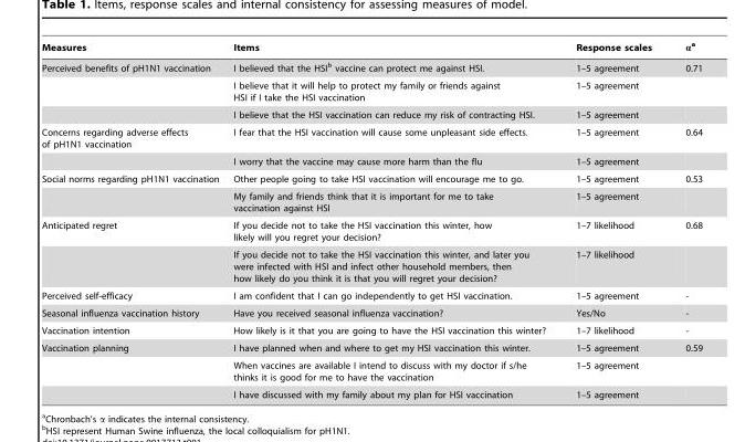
<table><thead><tr><td>Measures</td><td>Items</td><td>Response scales</td><td>α<sup>a</sup></td></tr></thead><tbody><tr><td rowspan="3">Perceived benefits of pH1N1 vaccination</td><td>I believed that the HSI<sup>b</sup> vaccine can protect me against HSI.</td><td>1–5 agreement</td><td>0.71</td></tr><tr><td>I believe that it will help to protect my family or friends against HSI if I take the HSI vaccination</td><td>1–5 agreement</td><td></td></tr><tr><td>I believe that the HSI vaccination can reduce my risk of contracting HSI.</td><td>1–5 agreement</td><td></td></tr><tr><td rowspan="2">Concerns regarding adverse effects of pH1N1 vaccination</td><td>I fear that the HSI vaccination will cause some unpleasant side effects.</td><td>1–5 agreement</td><td>0.64</td></tr><tr><td>I worry that the vaccine may cause more harm than the flu</td><td>1–5 agreement</td><td></td></tr><tr><td rowspan="2">Social norms regarding pH1N1 vaccination</td><td>Other people going to take HSI vaccination will encourage me to go.</td><td>1–5 agreement</td><td>0.53</td></tr><tr><td>My family and friends think that it is important for me to take vaccination against HSI</td><td>1–5 agreement</td><td></td></tr><tr><td rowspan="2">Anticipated regret</td><td>If you decide not to take the HSI vaccination this winter, how likely will you regret your decision?</td><td>1–7 likelihood</td><td>0.68</td></tr><tr><td>If you decide not to take the HSI vaccination this winter, and later you were infected with HSI and infect other household members, then how likely do you think it is that you will regret your decision?</td><td>1–7 likelihood</td><td></td></tr><tr><td>Perceived self-efficacy</td><td>I am confident that I can go independently to get HSI vaccination.</td><td>1–5 agreement</td><td>-</td></tr><tr><td>Seasonal influenza vaccination history</td><td>Have you received seasonal influenza vaccination?</td><td>Yes/No</td><td>-</td></tr><tr><td>Vaccination intention</td><td>How likely is it that you are going to have the HSI vaccination this winter?</td><td>1–7 likelihood</td><td>-</td></tr><tr><td rowspan="3">Vaccination planning</td><td>I have planned when and where to get my HSI vaccination this winter.</td><td>1–5 agreement</td><td>0.59</td></tr><tr><td>When vaccines are available I intend to discuss with my doctor if s/he thinks it is good for me to have the vaccination</td><td>1–5 agreement</td><td></td></tr><tr><td>I have discussed with my family about my plan for HSI vaccination</td><td>1–5 agreement</td><td></td></tr></tbody></table>